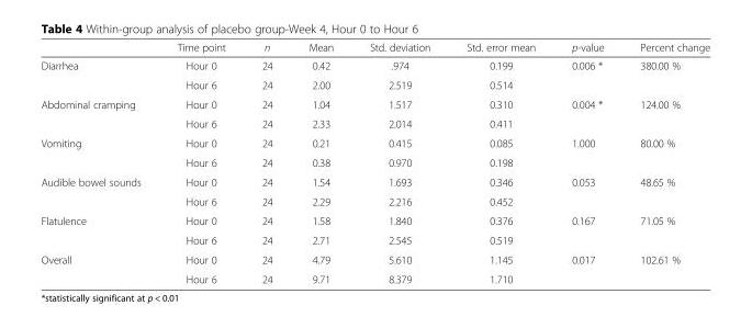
<table><thead><tr><td></td><td>Time point</td><td>n</td><td>Mean</td><td>Std. deviation</td><td>Std. error mean</td><td>p-value</td><td>Percent change</td></tr></thead><tbody><tr><td rowspan="2">Diarrhea</td><td>Hour 0</td><td>24</td><td>0.42</td><td>.974</td><td>0.199</td><td rowspan="2">0.006 *</td><td rowspan="2">380.00 %</td></tr><tr><td>Hour 6</td><td>24</td><td>2.00</td><td>2.519</td><td>0.514</td></tr><tr><td rowspan="2">Abdominal cramping</td><td>Hour 0</td><td>24</td><td>1.04</td><td>1.517</td><td>0.310</td><td rowspan="2">0.004 *</td><td rowspan="2">124.00 %</td></tr><tr><td>Hour 6</td><td>24</td><td>2.33</td><td>2.014</td><td>0.411</td></tr><tr><td rowspan="2">Vomiting</td><td>Hour 0</td><td>24</td><td>0.21</td><td>0.415</td><td>0.085</td><td rowspan="2">1.000</td><td rowspan="2">80.00 %</td></tr><tr><td>Hour 6</td><td>24</td><td>0.38</td><td>0.970</td><td>0.198</td></tr><tr><td rowspan="2">Audible bowel sounds</td><td>Hour 0</td><td>24</td><td>1.54</td><td>1.693</td><td>0.346</td><td rowspan="2">0.053</td><td rowspan="2">48.65 %</td></tr><tr><td>Hour 6</td><td>24</td><td>2.29</td><td>2.216</td><td>0.452</td></tr><tr><td rowspan="2">Flatulence</td><td>Hour 0</td><td>24</td><td>1.58</td><td>1.840</td><td>0.376</td><td rowspan="2">0.167</td><td rowspan="2">71.05 %</td></tr><tr><td>Hour 6</td><td>24</td><td>2.71</td><td>2.545</td><td>0.519</td></tr><tr><td rowspan="2">Overall</td><td>Hour 0</td><td>24</td><td>4.79</td><td>5.610</td><td>1.145</td><td rowspan="2">0.017</td><td rowspan="2">102.61 %</td></tr><tr><td>Hour 6</td><td>24</td><td>9.71</td><td>8.379</td><td>1.710</td></tr></tbody></table>